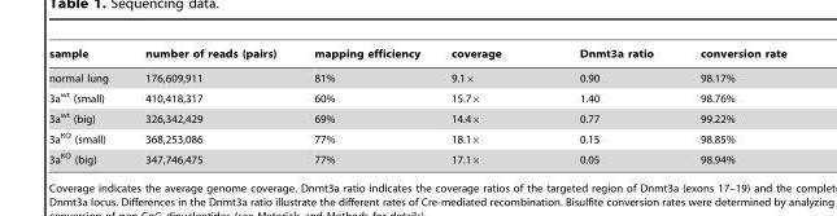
<table><thead><tr><td>sample</td><td>number of reads (pairs)</td><td>mapping efficiency</td><td>coverage</td><td>Dnmt3a ratio</td><td>conversion rate</td></tr></thead><tbody><tr><td>normal lung</td><td>176,609,911</td><td>81%</td><td>9.1×</td><td>0.90</td><td>98.17%</td></tr><tr><td>3a<sup>wt</sup> (small)</td><td>410,418,317</td><td>60%</td><td>15.7×</td><td>1.40</td><td>98.76%</td></tr><tr><td>3a<sup>wt</sup> (big)</td><td>326,342,429</td><td>69%</td><td>14.4×</td><td>0.77</td><td>99.22%</td></tr><tr><td>3a<sup>KO</sup> (small)</td><td>368,253,086</td><td>77%</td><td>18.1×</td><td>0.15</td><td>98.85%</td></tr><tr><td>3a<sup>KO</sup> (big)</td><td>347,746,475</td><td>77%</td><td>17.1×</td><td>0.05</td><td>98.94%</td></tr></tbody></table>